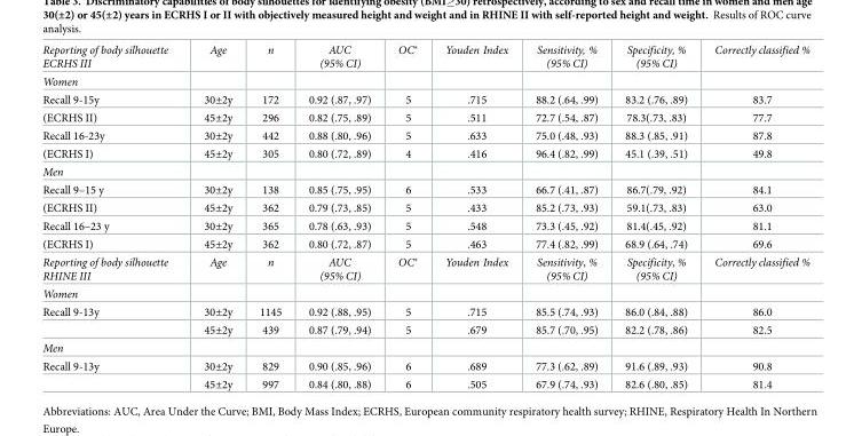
<table><tbody><tr><td>Reporting of body silhouette ECRHS III</td><td>Age</td><td>n</td><td>AUC (95% CI)</td><td>OC*</td><td>Youden Index</td><td>Sensitivity, % (95% CI)</td><td>Specificity, % (95% CI)</td><td>Correctly classified %</td></tr><tr><td colspan="9">Women</td></tr><tr><td>Recall 9-15y</td><td>30±2y</td><td>172</td><td>0.92 (.87, .97)</td><td>5</td><td>.715</td><td>88.2 (.64, .99)</td><td>83.2 (.76, .89)</td><td>83.7</td></tr><tr><td>(ECRHS II)</td><td>45±2y</td><td>296</td><td>0.82 (.75, .89)</td><td>5</td><td>.511</td><td>72.7 (.54, .87)</td><td>78.3(.73, .83)</td><td>77.7</td></tr><tr><td>Recall 16-23y</td><td>30±2y</td><td>442</td><td>0.88 (.80, .96)</td><td>5</td><td>.633</td><td>75.0 (.48, .93)</td><td>88.3 (.85, .91)</td><td>87.8</td></tr><tr><td>(ECRHS I)</td><td>45±2y</td><td>305</td><td>0.80 (.72, .89)</td><td>4</td><td>.416</td><td>96.4 (.82, .99)</td><td>45.1 (.39, .51)</td><td>49.8</td></tr><tr><td colspan="9">Men</td></tr><tr><td>Recall 9–15 y</td><td>30±2y</td><td>138</td><td>0.85 (.75, .95)</td><td>6</td><td>.533</td><td>66.7 (.41, .87)</td><td>86.7(.79, .92)</td><td>84.1</td></tr><tr><td>(ECRHS II)</td><td>45±2y</td><td>362</td><td>0.79 (.73, .85)</td><td>5</td><td>.433</td><td>85.2 (.73, .93)</td><td>59.1(.73, .83)</td><td>63.0</td></tr><tr><td>Recall 16–23 y</td><td>30±2y</td><td>365</td><td>0.78 (.63, .93)</td><td>5</td><td>.548</td><td>73.3 (.45, .92)</td><td>81.4(.45, .92)</td><td>81.1</td></tr><tr><td>(ECRHS I)</td><td>45±2y</td><td>362</td><td>0.80 (.72, .87)</td><td>5</td><td>.463</td><td>77.4 (.82, .99)</td><td>68.9 (.64, .74)</td><td>69.6</td></tr><tr><td>Reporting of body silhouette RHINE III</td><td>Age</td><td>n</td><td>AUC (95% CI)</td><td>OC*</td><td>Youden Index</td><td>Sensitivity, % (95% CI)</td><td>Specificity, % (95% CI)</td><td>Correctly classified %</td></tr><tr><td colspan="9">Women</td></tr><tr><td rowspan="2">Recall 9-13y</td><td>30±2y</td><td>1145</td><td>0.92 (.88, .95)</td><td>5</td><td>.715</td><td>85.5 (.74, .93)</td><td>86.0 (.84, .88)</td><td>86.0</td></tr><tr><td>45±2y</td><td>439</td><td>0.87 (.79, .94)</td><td>5</td><td>.679</td><td>85.7 (.70, .95)</td><td>82.2 (.78, .86)</td><td>82.5</td></tr><tr><td colspan="9">Men</td></tr><tr><td rowspan="2">Recall 9-13y</td><td>30±2y</td><td>829</td><td>0.90 (.85, .96)</td><td>6</td><td>.689</td><td>77.3 (.62, .89)</td><td>91.6 (.89, .93)</td><td>90.8</td></tr><tr><td>45±2y</td><td>997</td><td>0.84 (.80, .88)</td><td>6</td><td>.505</td><td>67.9 (.74, .93)</td><td>82.6 (.80, .85)</td><td>81.4</td></tr></tbody></table>